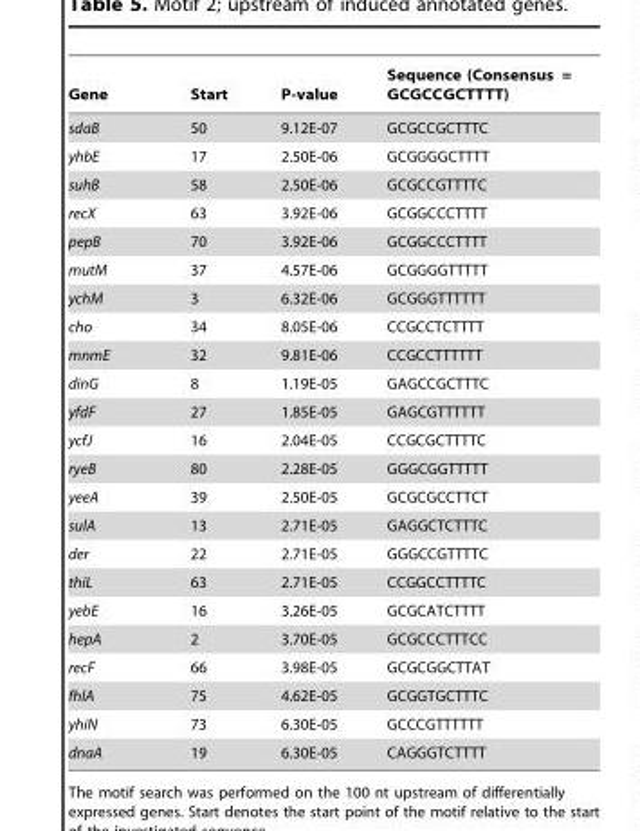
<table><thead><tr><td>Gene</td><td>Start</td><td>P-value</td><td>Sequence (Consensus = GCGCCGCTTTT)</td></tr></thead><tbody><tr><td>sdaB</td><td>50</td><td>9.12E-07</td><td>GCGCCGCTTTC</td></tr><tr><td>yhbE</td><td>17</td><td>2.50E-06</td><td>GCGGGGCTTTT</td></tr><tr><td>suhB</td><td>58</td><td>2.50E-06</td><td>GCGCCGTTTTC</td></tr><tr><td>recX</td><td>63</td><td>3.92E-06</td><td>GCGGCCCTTTT</td></tr><tr><td>pepB</td><td>70</td><td>3.92E-06</td><td>GCGGCCCTTTT</td></tr><tr><td>mutM</td><td>37</td><td>4.57E-06</td><td>GCGGGGTTTTT</td></tr><tr><td>ychM</td><td>3</td><td>6.32E-06</td><td>GCGGGTTTTTT</td></tr><tr><td>cho</td><td>34</td><td>8.05E-06</td><td>CCGCCTCTTTT</td></tr><tr><td>mnmE</td><td>32</td><td>9.81E-06</td><td>CCGCCTTTTTT</td></tr><tr><td>dinG</td><td>8</td><td>1.19E-05</td><td>GAGCCGCTTTC</td></tr><tr><td>yfdF</td><td>27</td><td>1.85E-05</td><td>GAGCGTTTTTT</td></tr><tr><td>ycfJ</td><td>16</td><td>2.04E-05</td><td>CCGCGCTTTTC</td></tr><tr><td>ryeB</td><td>80</td><td>2.28E-05</td><td>GGGCGGTTTTT</td></tr><tr><td>yeeA</td><td>39</td><td>2.50E-05</td><td>GCGCGCCTTCT</td></tr><tr><td>sulA</td><td>13</td><td>2.71E-05</td><td>GAGGCTCTTTC</td></tr><tr><td>der</td><td>22</td><td>2.71E-05</td><td>GGGCCGTTTTC</td></tr><tr><td>thiL</td><td>63</td><td>2.71E-05</td><td>CCGGCCTTTTC</td></tr><tr><td>yebE</td><td>16</td><td>3.26E-05</td><td>GCGCATCTTTT</td></tr><tr><td>hepA</td><td>2</td><td>3.70E-05</td><td>GCGCCCTTTCC</td></tr><tr><td>recF</td><td>66</td><td>3.98E-05</td><td>GCGCGGCTTAT</td></tr><tr><td>fhlA</td><td>75</td><td>4.62E-05</td><td>GCGGTGCTTTC</td></tr><tr><td>yhiN</td><td>73</td><td>6.30E-05</td><td>GCCCGTTTTTT</td></tr><tr><td>dnaA</td><td>19</td><td>6.30E-05</td><td>CAGGGTCTTTT</td></tr></tbody></table>